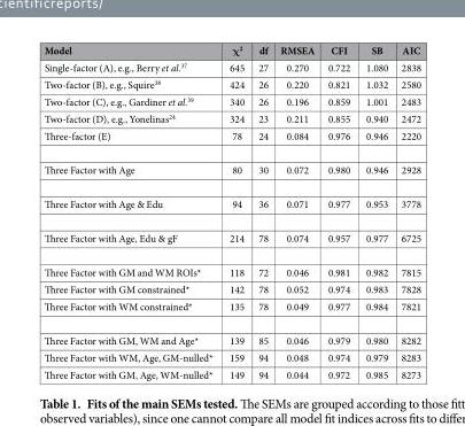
<table><thead><tr><td>Model</td><td>χ<sup>2</sup></td><td>df</td><td>RMSEA</td><td>CFI</td><td>SB</td><td>AIC</td></tr></thead><tbody><tr><td>Single-factor (A), e.g., Berry et al.<sup>37</sup></td><td>645</td><td>27</td><td>0.270</td><td>0.722</td><td>1.080</td><td>2838</td></tr><tr><td>Two-factor (B), e.g., Squire<sup>38</sup></td><td>424</td><td>26</td><td>0.220</td><td>0.821</td><td>1.032</td><td>2580</td></tr><tr><td>Two-factor (C), e.g., Gardiner et al.<sup>39</sup></td><td>340</td><td>26</td><td>0.196</td><td>0.859</td><td>1.001</td><td>2483</td></tr><tr><td>Two-factor (D), e.g., Yonelinas<sup>24</sup></td><td>324</td><td>23</td><td>0.211</td><td>0.855</td><td>0.940</td><td>2472</td></tr><tr><td>Three-factor (E)</td><td>78</td><td>24</td><td>0.084</td><td>0.976</td><td>0.946</td><td>2220</td></tr><tr><td>Three Factor with Age</td><td>80</td><td>30</td><td>0.072</td><td>0.980</td><td>0.946</td><td>2928</td></tr><tr><td>Three Factor with Age &amp; Edu</td><td>94</td><td>36</td><td>0.071</td><td>0.977</td><td>0.953</td><td>3778</td></tr><tr><td>Three Factor with Age, Edu &amp; gF</td><td>214</td><td>78</td><td>0.074</td><td>0.957</td><td>0.977</td><td>6725</td></tr><tr><td>Three Factor with GM and WM ROIs*</td><td>118</td><td>72</td><td>0.046</td><td>0.981</td><td>0.982</td><td>7815</td></tr><tr><td>Three Factor with GM constrained*</td><td>142</td><td>78</td><td>0.052</td><td>0.974</td><td>0.983</td><td>7828</td></tr><tr><td>Three Factor with WM constrained*</td><td>135</td><td>78</td><td>0.049</td><td>0.977</td><td>0.984</td><td>7821</td></tr><tr><td>Three Factor with GM, WM and Age*</td><td>139</td><td>85</td><td>0.046</td><td>0.979</td><td>0.980</td><td>8282</td></tr><tr><td>Three Factor with WM, Age, GM-nulled*</td><td>159</td><td>94</td><td>0.048</td><td>0.974</td><td>0.979</td><td>8283</td></tr><tr><td>Three Factor with GM, Age, WM-nulled*</td><td>149</td><td>94</td><td>0.044</td><td>0.972</td><td>0.985</td><td>8273</td></tr></tbody></table>